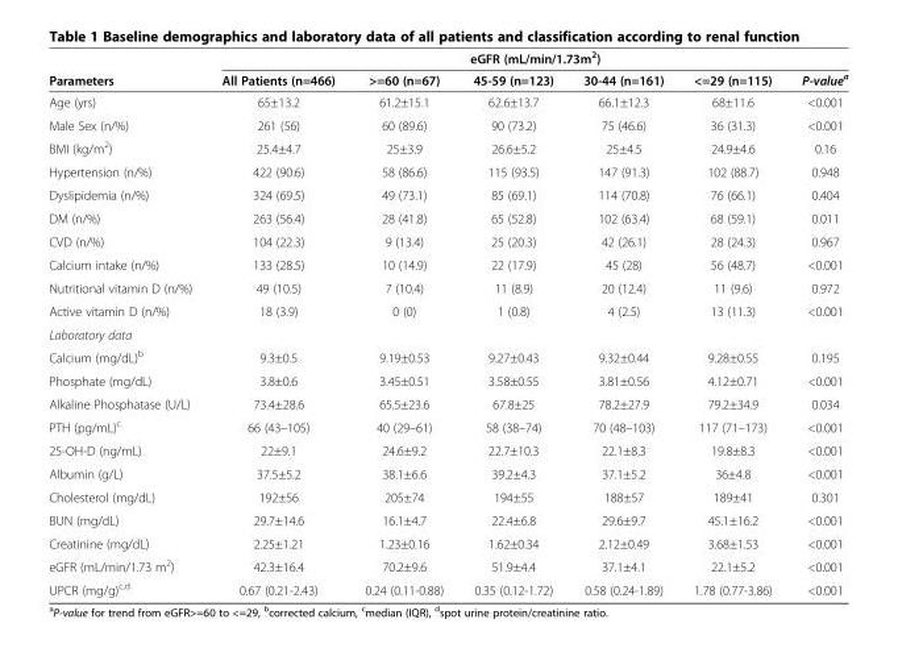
<table><thead><tr><td rowspan="2">Parameters</td><td colspan="6">eGFR (mL/min/1.73m2)</td></tr><tr><td>All Patients (n=466)</td><td>&gt;=60 (n=67)</td><td>45-59 (n=123)</td><td>30-44 (n=161)</td><td>&lt;=29 (n=115)</td><td>P-value<sup>a</sup></td></tr></thead><tbody><tr><td>Age (yrs)</td><td>65±13.2</td><td>61.2±15.1</td><td>62.6±13.7</td><td>66.1±12.3</td><td>68±11.6</td><td>&lt;0.001</td></tr><tr><td>Male Sex (n/%)</td><td>261 (56)</td><td>60 (89.6)</td><td>90 (73.2)</td><td>75 (46.6)</td><td>36 (31.3)</td><td>&lt;0.001</td></tr><tr><td>BMI (kg/m<sup>2</sup>)</td><td>25.4±4.7</td><td>25±3.9</td><td>26.6±5.2</td><td>25±4.5</td><td>24.9±4.6</td><td>0.16</td></tr><tr><td>Hypertension (n/%)</td><td>422 (90.6)</td><td>58 (86.6)</td><td>115 (93.5)</td><td>147 (91.3)</td><td>102 (88.7)</td><td>0.948</td></tr><tr><td>Dyslipidemia (n/%)</td><td>324 (69.5)</td><td>49 (73.1)</td><td>85 (69.1)</td><td>114 (70.8)</td><td>76 (66.1)</td><td>0.404</td></tr><tr><td>DM (n/%)</td><td>263 (56.4)</td><td>28 (41.8)</td><td>65 (52.8)</td><td>102 (63.4)</td><td>68 (59.1)</td><td>0.011</td></tr><tr><td>CVD (n/%)</td><td>104 (22.3)</td><td>9 (13.4)</td><td>25 (20.3)</td><td>42 (26.1)</td><td>28 (24.3)</td><td>0.967</td></tr><tr><td>Calcium intake (n/%)</td><td>133 (28.5)</td><td>10 (14.9)</td><td>22 (17.9)</td><td>45 (28)</td><td>56 (48.7)</td><td>&lt;0.001</td></tr><tr><td>Nutritional vitamin D (n/%)</td><td>49 (10.5)</td><td>7 (10.4)</td><td>11 (8.9)</td><td>20 (12.4)</td><td>11 (9.6)</td><td>0.972</td></tr><tr><td>Active vitamin D (n/%)</td><td>18 (3.9)</td><td>0 (0)</td><td>1 (0.8)</td><td>4 (2.5)</td><td>13 (11.3)</td><td>&lt;0.001</td></tr><tr><td colspan="7">Laboratory data</td></tr><tr><td>Calcium (mg/dL)<sup>b</sup></td><td>9.3±0.5</td><td>9.19±0.53</td><td>9.27±0.43</td><td>9.32±0.44</td><td>9.28±0.55</td><td>0.195</td></tr><tr><td>Phosphate (mg/dL)</td><td>3.8±0.6</td><td>3.45±0.51</td><td>3.58±0.55</td><td>3.81±0.56</td><td>4.12±0.71</td><td>&lt;0.001</td></tr><tr><td>Alkaline Phosphatase (U/L)</td><td>73.4±28.6</td><td>65.5±23.6</td><td>67.8±25</td><td>78.2±27.9</td><td>79.2±34.9</td><td>0.034</td></tr><tr><td>PTH (pg/mL)<sup>c</sup></td><td>66 (43–105)</td><td>40 (29–61)</td><td>58 (38–74)</td><td>70 (48–103)</td><td>117 (71–173)</td><td>&lt;0.001</td></tr><tr><td>25-OH-D (ng/mL)</td><td>22±9.1</td><td>24.6±9.2</td><td>22.7±10.3</td><td>22.1±8.3</td><td>19.8±8.3</td><td>&lt;0.001</td></tr><tr><td>Albumin (g/L)</td><td>37.5±5.2</td><td>38.1±6.6</td><td>39.2±4.3</td><td>37.1±5.2</td><td>36±4.8</td><td>&lt;0.001</td></tr><tr><td>Cholesterol (mg/dL)</td><td>192±56</td><td>205±74</td><td>194±55</td><td>188±57</td><td>189±41</td><td>0.301</td></tr><tr><td>BUN (mg/dL)</td><td>29.7±14.6</td><td>16.1±4.7</td><td>22.4±6.8</td><td>29.6±9.7</td><td>45.1±16.2</td><td>&lt;0.001</td></tr><tr><td>Creatinine (mg/dL)</td><td>2.25±1.21</td><td>1.23±0.16</td><td>1.62±0.34</td><td>2.12±0.49</td><td>3.68±1.53</td><td>&lt;0.001</td></tr><tr><td>eGFR (mL/min/1.73 m<sup>2</sup>)</td><td>42.3±16.4</td><td>70.2±9.6</td><td>51.9±4.4</td><td>37.1±4.1</td><td>22.1±5.2</td><td>&lt;0.001</td></tr><tr><td>UPCR (mg/g)<sup>c,d</sup></td><td>0.67 (0.21-2.43)</td><td>0.24 (0.11-0.88)</td><td>0.35 (0.12-1.72)</td><td>0.58 (0.24-1.89)</td><td>1.78 (0.77-3.86)</td><td>&lt;0.001</td></tr></tbody></table>